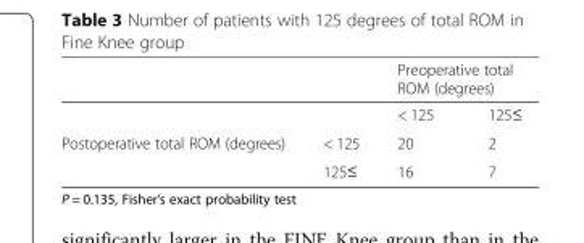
<table><thead><tr><td rowspan="2"></td><td rowspan="2"></td><td colspan="2">Preoperative total ROM (degrees)</td></tr><tr><td>&lt; 125</td><td>125≤</td></tr></thead><tbody><tr><td rowspan="2">Postoperative total ROM (degrees)</td><td>&lt; 125</td><td>20</td><td>2</td></tr><tr><td>125≤</td><td>16</td><td>7</td></tr></tbody></table>